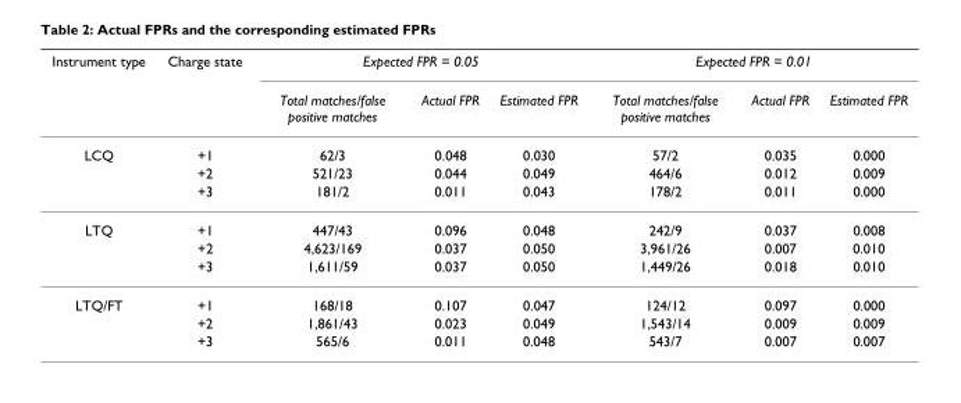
<table><thead><tr><td rowspan="2">Instrument type</td><td rowspan="2">Charge state</td><td colspan="3">Expected FPR = 0.05</td><td colspan="3">Expected FPR = 0.01</td></tr><tr><td>Total matches/false positive matches</td><td>Actual FPR</td><td>Estimated FPR</td><td>Total matches/false positive matches</td><td>Actual FPR</td><td>Estimated FPR</td></tr></thead><tbody><tr><td rowspan="3">LCQ</td><td>+1</td><td>62/3</td><td>0.048</td><td>0.030</td><td>57/2</td><td>0.035</td><td>0.000</td></tr><tr><td>+2</td><td>521/23</td><td>0.044</td><td>0.049</td><td>464/6</td><td>0.012</td><td>0.009</td></tr><tr><td>+3</td><td>181/2</td><td>0.011</td><td>0.043</td><td>178/2</td><td>0.011</td><td>0.000</td></tr><tr><td rowspan="3">LTQ</td><td>+1</td><td>447/43</td><td>0.096</td><td>0.048</td><td>242/9</td><td>0.037</td><td>0.008</td></tr><tr><td>+2</td><td>4,623/169</td><td>0.037</td><td>0.050</td><td>3,961/26</td><td>0.007</td><td>0.010</td></tr><tr><td>+3</td><td>1,611/59</td><td>0.037</td><td>0.050</td><td>1,449/26</td><td>0.018</td><td>0.010</td></tr><tr><td rowspan="3">LTQ/FT</td><td>+1</td><td>168/18</td><td>0.107</td><td>0.047</td><td>124/12</td><td>0.097</td><td>0.000</td></tr><tr><td>+2</td><td>1,861/43</td><td>0.023</td><td>0.049</td><td>1,543/14</td><td>0.009</td><td>0.009</td></tr><tr><td>+3</td><td>565/6</td><td>0.011</td><td>0.048</td><td>543/7</td><td>0.007</td><td>0.007</td></tr></tbody></table>